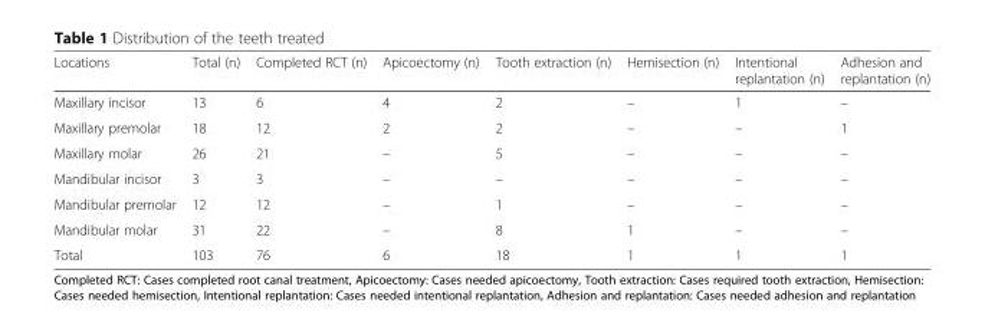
<table><thead><tr><td>Locations</td><td>Total (n)</td><td>Completed RCT (n)</td><td>Apicoectomy (n)</td><td>Tooth extraction (n)</td><td>Hemisection (n)</td><td>Intentional replantation (n)</td><td>Adhesion and replantation (n)</td></tr></thead><tbody><tr><td>Maxillary incisor</td><td>13</td><td>6</td><td>4</td><td>2</td><td>–</td><td>1</td><td>–</td></tr><tr><td>Maxillary premolar</td><td>18</td><td>12</td><td>2</td><td>2</td><td>–</td><td>–</td><td>1</td></tr><tr><td>Maxillary molar</td><td>26</td><td>21</td><td>–</td><td>5</td><td>–</td><td>–</td><td>–</td></tr><tr><td>Mandibular incisor</td><td>3</td><td>3</td><td>–</td><td>–</td><td>–</td><td>–</td><td>–</td></tr><tr><td>Mandibular premolar</td><td>12</td><td>12</td><td>–</td><td>1</td><td>–</td><td>–</td><td>–</td></tr><tr><td>Mandibular molar</td><td>31</td><td>22</td><td>–</td><td>8</td><td>1</td><td>–</td><td>–</td></tr><tr><td>Total</td><td>103</td><td>76</td><td>6</td><td>18</td><td>1</td><td>1</td><td>1</td></tr></tbody></table>